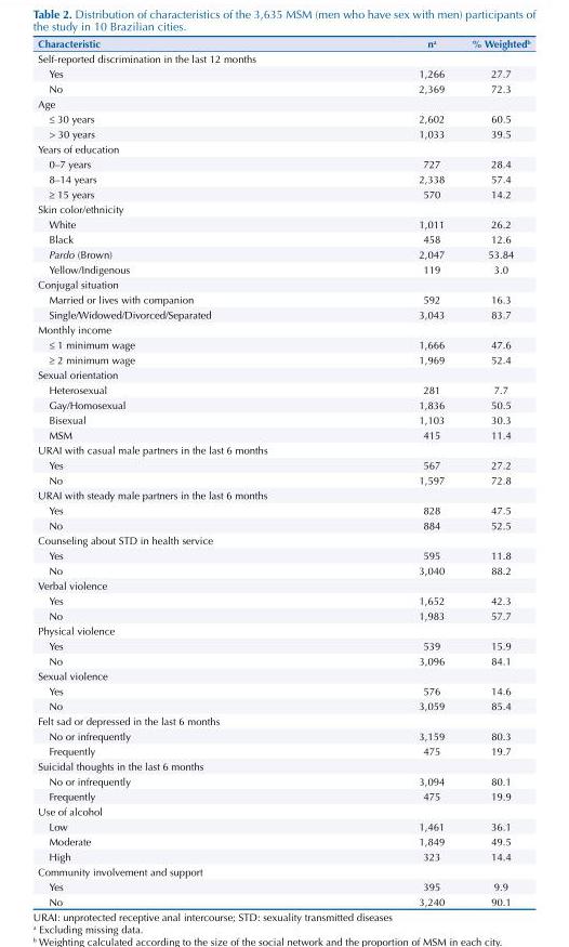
<table><thead><tr><td>Characteristic</td><td>n<sup>a</sup></td><td>% Weighted<sup>b</sup></td></tr></thead><tbody><tr><td colspan="3">Self-reported discrimination in the last 12 months</td></tr><tr><td>Yes</td><td>1,266</td><td>27.7</td></tr><tr><td>No</td><td>2,369</td><td>72.3</td></tr><tr><td colspan="3">Age</td></tr><tr><td>≤ 30 years</td><td>2,602</td><td>60.5</td></tr><tr><td>&gt; 30 years</td><td>1,033</td><td>39.5</td></tr><tr><td colspan="3">Years of education</td></tr><tr><td>0–7 years</td><td>727</td><td>28.4</td></tr><tr><td>8–14 years</td><td>2,338</td><td>57.4</td></tr><tr><td>≥ 15 years</td><td>570</td><td>14.2</td></tr><tr><td colspan="3">Skin color/ethnicity</td></tr><tr><td>White</td><td>1,011</td><td>26.2</td></tr><tr><td>Black</td><td>458</td><td>12.6</td></tr><tr><td>Pardo (Brown)</td><td>2,047</td><td>53.84</td></tr><tr><td>Yellow/Indigenous</td><td>119</td><td>3.0</td></tr><tr><td colspan="3">Conjugal situation</td></tr><tr><td>Married or lives with companion</td><td>592</td><td>16.3</td></tr><tr><td>Single/Widowed/Divorced/Separated</td><td>3,043</td><td>83.7</td></tr><tr><td colspan="3">Monthly income</td></tr><tr><td>≤ 1 minimum wage</td><td>1,666</td><td>47.6</td></tr><tr><td>≥ 2 minimum wage</td><td>1,969</td><td>52.4</td></tr><tr><td colspan="3">Sexual orientation</td></tr><tr><td>Heterosexual</td><td>281</td><td>7.7</td></tr><tr><td>Gay/Homosexual</td><td>1,836</td><td>50.5</td></tr><tr><td>Bisexual</td><td>1,103</td><td>30.3</td></tr><tr><td>MSM</td><td>415</td><td>11.4</td></tr><tr><td colspan="3">URAI with casual male partners in the last 6 months</td></tr><tr><td>Yes</td><td>567</td><td>27.2</td></tr><tr><td>No</td><td>1,597</td><td>72.8</td></tr><tr><td colspan="3">URAI with steady male partners in the last 6 months</td></tr><tr><td>Yes</td><td>828</td><td>47.5</td></tr><tr><td>No</td><td>884</td><td>52.5</td></tr><tr><td colspan="3">Counseling about STD in health service</td></tr><tr><td>Yes</td><td>595</td><td>11.8</td></tr><tr><td>No</td><td>3,040</td><td>88.2</td></tr><tr><td colspan="3">Verbal violence</td></tr><tr><td>Yes</td><td>1,652</td><td>42.3</td></tr><tr><td>No</td><td>1,983</td><td>57.7</td></tr><tr><td colspan="3">Physical violence</td></tr><tr><td>Yes</td><td>539</td><td>15.9</td></tr><tr><td>No</td><td>3,096</td><td>84.1</td></tr><tr><td colspan="3">Sexual violence</td></tr><tr><td>Yes</td><td>576</td><td>14.6</td></tr><tr><td>No</td><td>3,059</td><td>85.4</td></tr><tr><td colspan="3">Felt sad or depressed in the last 6 months</td></tr><tr><td>No or infrequently</td><td>3,159</td><td>80.3</td></tr><tr><td>Frequently</td><td>475</td><td>19.7</td></tr><tr><td colspan="3">Suicidal thoughts in the last 6 months</td></tr><tr><td>No or infrequently</td><td>3,094</td><td>80.1</td></tr><tr><td>Frequently</td><td>475</td><td>19.9</td></tr><tr><td colspan="3">Use of alcohol</td></tr><tr><td>Low</td><td>1,461</td><td>36.1</td></tr><tr><td>Moderate</td><td>1,849</td><td>49.5</td></tr><tr><td>High</td><td>323</td><td>14.4</td></tr><tr><td colspan="3">Community involvement and support</td></tr><tr><td>Yes</td><td>395</td><td>9.9</td></tr><tr><td>No</td><td>3,240</td><td>90.1</td></tr></tbody></table>